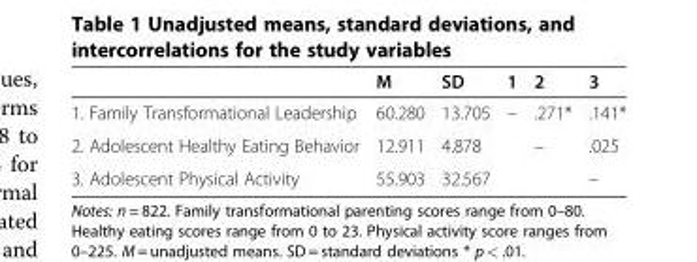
<table><thead><tr><td></td><td>M</td><td>SD</td><td>1</td><td>2</td><td>3</td></tr></thead><tbody><tr><td>1. Family Transformational Leadership</td><td>60.280</td><td>13.705</td><td>–</td><td>.271*</td><td>.141*</td></tr><tr><td>2. Adolescent Healthy Eating Behavior</td><td>12.911</td><td>4.878</td><td></td><td>–</td><td>.025</td></tr><tr><td>3. Adolescent Physical Activity</td><td>55.903</td><td>32.567</td><td></td><td></td><td>–</td></tr></tbody></table>